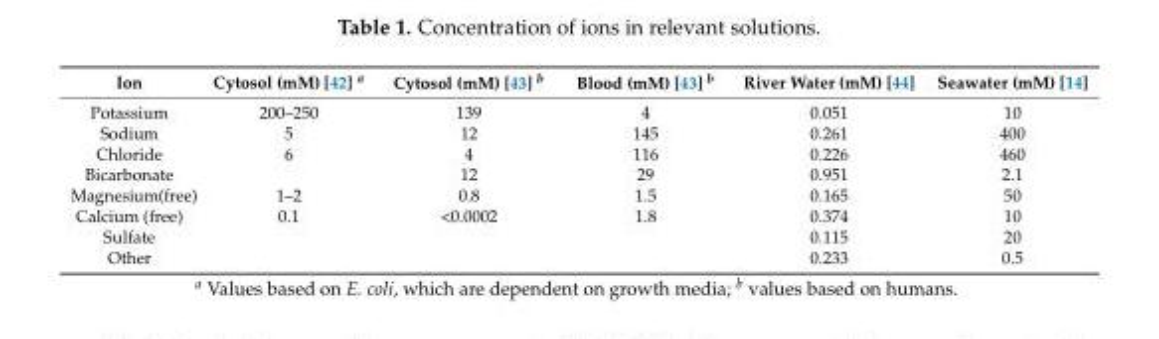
<table><thead><tr><td>Ion</td><td>Cytosol (mM) [42] <sup>a</sup></td><td>Cytosol (mM) [43] <sup>b</sup></td><td>Blood (mM) [43] <sup>b</sup></td><td>River Water (mM) [44]</td><td>Seawater (mM) [14]</td></tr></thead><tbody><tr><td>Potassium</td><td>200–250</td><td>139</td><td>4</td><td>0.051</td><td>10</td></tr><tr><td>Sodium</td><td>5</td><td>12</td><td>145</td><td>0.261</td><td>400</td></tr><tr><td>Chloride</td><td>6</td><td>4</td><td>116</td><td>0.226</td><td>460</td></tr><tr><td>Bicarbonate</td><td></td><td>12</td><td>29</td><td>0.951</td><td>2.1</td></tr><tr><td>Magnesium(free)</td><td>1–2</td><td>0.8</td><td>1.5</td><td>0.165</td><td>50</td></tr><tr><td>Calcium (free)</td><td>0.1</td><td>&lt;0.0002</td><td>1.8</td><td>0.374</td><td>10</td></tr><tr><td>Sulfate</td><td></td><td></td><td></td><td>0.115</td><td>20</td></tr><tr><td>Other</td><td></td><td></td><td></td><td>0.233</td><td>0.5</td></tr></tbody></table>